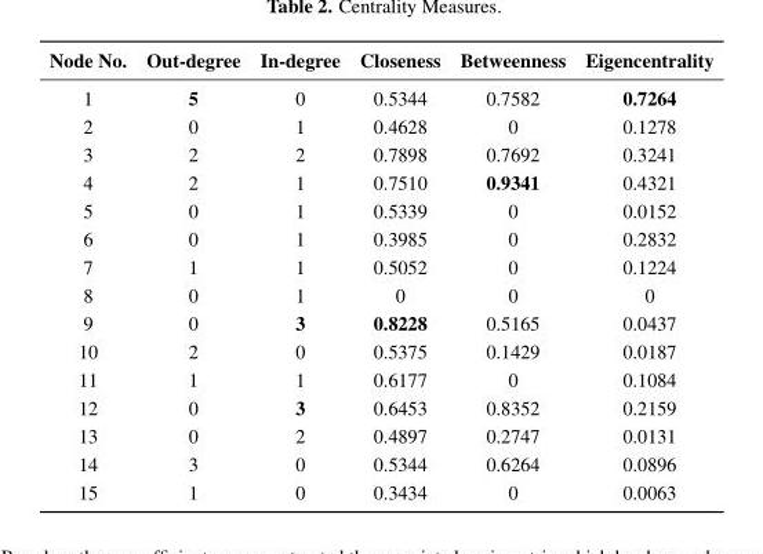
<table><thead><tr><td>Node No.</td><td>Out-degree</td><td>In-degree</td><td>Closeness</td><td>Betweenness</td><td>Eigencentrality</td></tr></thead><tbody><tr><td>1</td><td>5</td><td>0</td><td>0.5344</td><td>0.7582</td><td>0.7264</td></tr><tr><td>2</td><td>0</td><td>1</td><td>0.4628</td><td>0</td><td>0.1278</td></tr><tr><td>3</td><td>2</td><td>2</td><td>0.7898</td><td>0.7692</td><td>0.3241</td></tr><tr><td>4</td><td>2</td><td>1</td><td>0.7510</td><td>0.9341</td><td>0.4321</td></tr><tr><td>5</td><td>0</td><td>1</td><td>0.5339</td><td>0</td><td>0.0152</td></tr><tr><td>6</td><td>0</td><td>1</td><td>0.3985</td><td>0</td><td>0.2832</td></tr><tr><td>7</td><td>1</td><td>1</td><td>0.5052</td><td>0</td><td>0.1224</td></tr><tr><td>8</td><td>0</td><td>1</td><td>0</td><td>0</td><td>0</td></tr><tr><td>9</td><td>0</td><td>3</td><td>0.8228</td><td>0.5165</td><td>0.0437</td></tr><tr><td>10</td><td>2</td><td>0</td><td>0.5375</td><td>0.1429</td><td>0.0187</td></tr><tr><td>11</td><td>1</td><td>1</td><td>0.6177</td><td>0</td><td>0.1084</td></tr><tr><td>12</td><td>0</td><td>3</td><td>0.6453</td><td>0.8352</td><td>0.2159</td></tr><tr><td>13</td><td>0</td><td>2</td><td>0.4897</td><td>0.2747</td><td>0.0131</td></tr><tr><td>14</td><td>3</td><td>0</td><td>0.5344</td><td>0.6264</td><td>0.0896</td></tr><tr><td>15</td><td>1</td><td>0</td><td>0.3434</td><td>0</td><td>0.0063</td></tr></tbody></table>